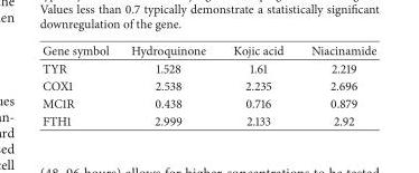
<table><thead><tr><td>Gene symbol</td><td>Hydroquinone</td><td>Kojic acid</td><td>Niacinamide</td></tr></thead><tbody><tr><td>TYR</td><td>1.528</td><td>1.61</td><td>2.219</td></tr><tr><td>COX1</td><td>2.538</td><td>2.235</td><td>2.696</td></tr><tr><td>MC1R</td><td>0.438</td><td>0.716</td><td>0.879</td></tr><tr><td>FTH1</td><td>2.999</td><td>2.133</td><td>2.92</td></tr></tbody></table>